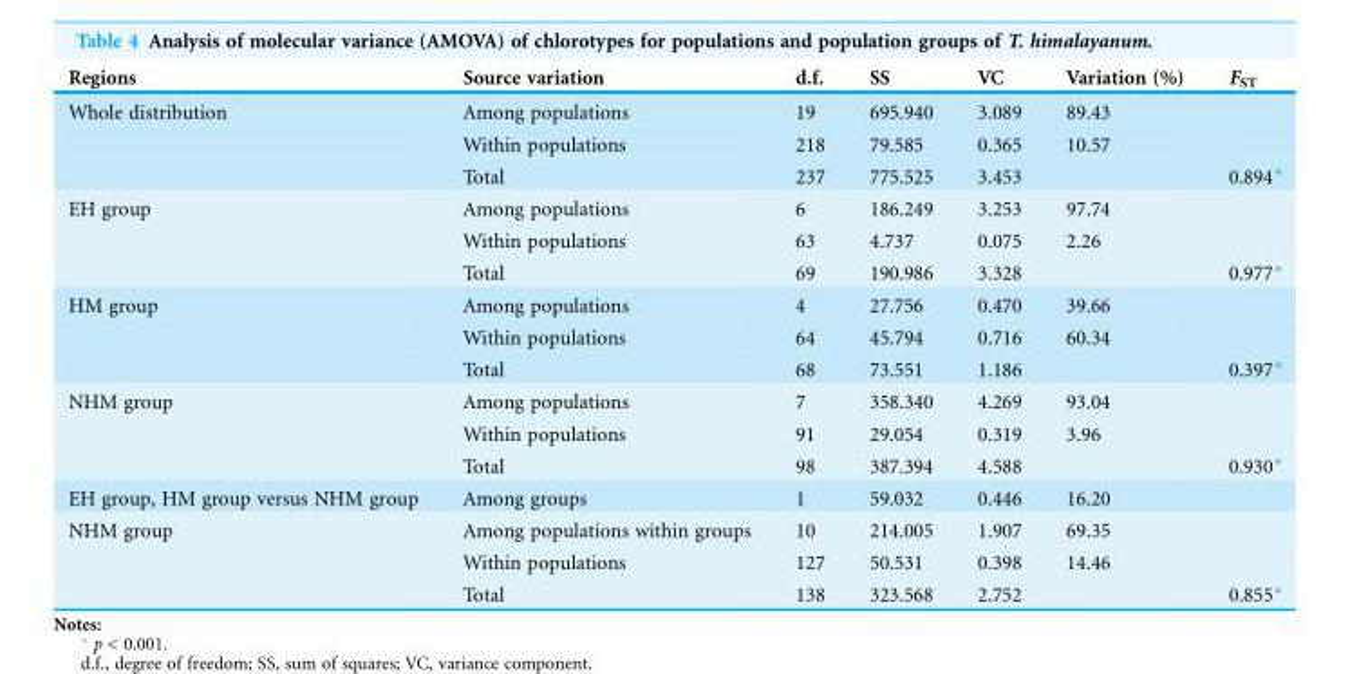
<table><thead><tr><td>Regions</td><td>Source variation</td><td>d.f.</td><td>SS</td><td>VC</td><td>Variation (%)</td><td>F<sub>ST</sub></td></tr></thead><tbody><tr><td rowspan="3">Whole distribution</td><td>Among populations</td><td>19</td><td>695.940</td><td>3.089</td><td>89.43</td><td></td></tr><tr><td>Within populations</td><td>218</td><td>79.585</td><td>0.365</td><td>10.57</td><td></td></tr><tr><td>Total</td><td>237</td><td>775.525</td><td>3.453</td><td></td><td>0.894*</td></tr><tr><td rowspan="3">EH group</td><td>Among populations</td><td>6</td><td>186.249</td><td>3.253</td><td>97.74</td><td></td></tr><tr><td>Within populations</td><td>63</td><td>4.737</td><td>0.075</td><td>2.26</td><td></td></tr><tr><td>Total</td><td>69</td><td>190.986</td><td>3.328</td><td></td><td>0.977*</td></tr><tr><td rowspan="3">HM group</td><td>Among populations</td><td>4</td><td>27.756</td><td>0.470</td><td>39.66</td><td></td></tr><tr><td>Within populations</td><td>64</td><td>45.794</td><td>0.716</td><td>60.34</td><td></td></tr><tr><td>Total</td><td>68</td><td>73.551</td><td>1.186</td><td></td><td>0.397*</td></tr><tr><td rowspan="3">NHM group</td><td>Among populations</td><td>7</td><td>358.340</td><td>4.269</td><td>93.04</td><td></td></tr><tr><td>Within populations</td><td>91</td><td>29.054</td><td>0.319</td><td>3.96</td><td></td></tr><tr><td>Total</td><td>98</td><td>387.394</td><td>4.588</td><td></td><td>0.930*</td></tr><tr><td>EH group, HM group versus NHM group</td><td>Among groups</td><td>1</td><td>59.032</td><td>0.446</td><td>16.20</td><td></td></tr><tr><td rowspan="3">NHM group</td><td>Among populations within groups</td><td>10</td><td>214.005</td><td>1.907</td><td>69.35</td><td></td></tr><tr><td>Within populations</td><td>127</td><td>50.531</td><td>0.398</td><td>14.46</td><td></td></tr><tr><td>Total</td><td>138</td><td>323.568</td><td>2.752</td><td></td><td>0.855*</td></tr></tbody></table>